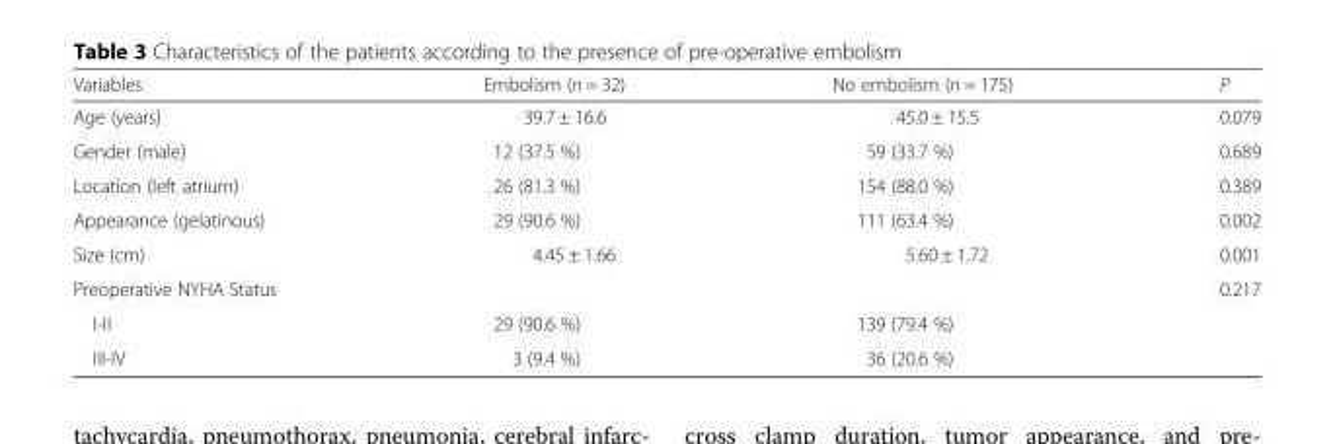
<table><thead><tr><td>Variables</td><td>Embolism (n = 32)</td><td>No embolism (n = 175)</td><td>P</td></tr></thead><tbody><tr><td>Age (years)</td><td>39.7 ± 16.6</td><td>45.0 ± 15.5</td><td>0.079</td></tr><tr><td>Gender (male)</td><td>12 (37.5 %)</td><td>59 (33.7 %)</td><td>0.689</td></tr><tr><td>Location (left atrium)</td><td>26 (81.3 %)</td><td>154 (88.0 %)</td><td>0.389</td></tr><tr><td>Appearance (gelatinous)</td><td>29 (90.6 %)</td><td>111 (63.4 %)</td><td>0.002</td></tr><tr><td>Size (cm)</td><td>4.45 ± 1.66</td><td>5.60 ± 1.72</td><td>0.001</td></tr><tr><td>Preoperative NYHA Status</td><td></td><td></td><td>0.217</td></tr><tr><td>I-II</td><td>29 (90.6 %)</td><td>139 (79.4 %)</td><td></td></tr><tr><td>III-IV</td><td>3 (9.4 %)</td><td>36 (20.6 %)</td><td></td></tr></tbody></table>